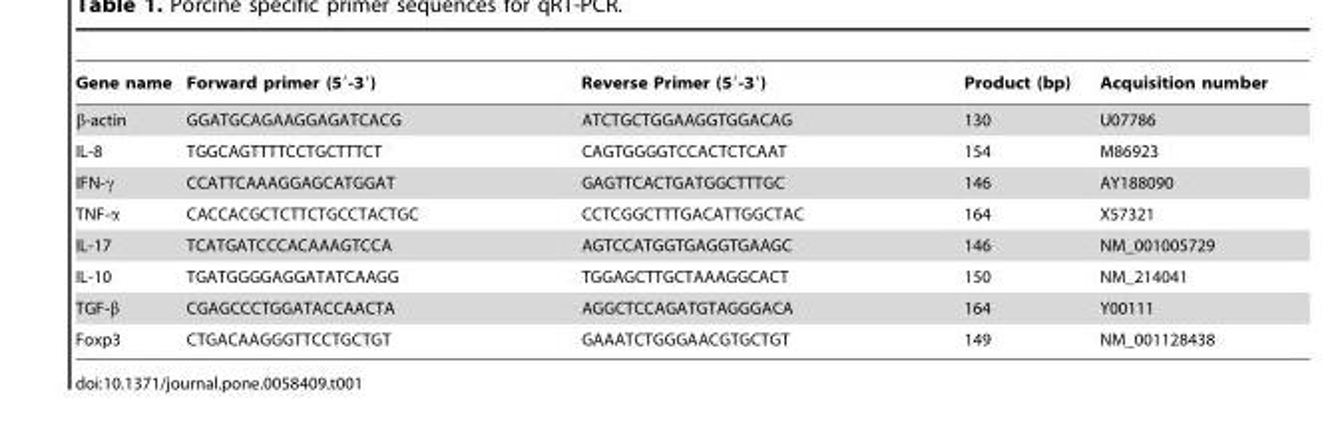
<table><thead><tr><td>Gene name</td><td>Forward primer (5′-3′)</td><td>Reverse Primer (5′-3′)</td><td>Product (bp)</td><td>Acquisition number</td></tr></thead><tbody><tr><td>β-actin</td><td>GGATGCAGAAGGAGATCACG</td><td>ATCTGCTGGAAGGTGGACAG</td><td>130</td><td>U07786</td></tr><tr><td>IL-8</td><td>TGGCAGTTTTCCTGCTTTCT</td><td>CAGTGGGGTCCACTCTCAAT</td><td>154</td><td>M86923</td></tr><tr><td>IFN-γ</td><td>CCATTCAAAGGAGCATGGAT</td><td>GAGTTCACTGATGGCTTTGC</td><td>146</td><td>AY188090</td></tr><tr><td>TNF-α</td><td>CACCACGCTCTTCTGCCTACTGC</td><td>CCTCGGCTTTGACATTGGCTAC</td><td>164</td><td>X57321</td></tr><tr><td>IL-17</td><td>TCATGATCCCACAAAGTCCA</td><td>AGTCCATGGTGAGGTGAAGC</td><td>146</td><td>NM_001005729</td></tr><tr><td>IL-10</td><td>TGATGGGGAGGATATCAAGG</td><td>TGGAGCTTGCTAAAGGCACT</td><td>150</td><td>NM_214041</td></tr><tr><td>TGF-β</td><td>CGAGCCCTGGATACCAACTA</td><td>AGGCTCCAGATGTAGGGACA</td><td>164</td><td>Y00111</td></tr><tr><td>Foxp3</td><td>CTGACAAGGGTTCCTGCTGT</td><td>GAAATCTGGGAACGTGCTGT</td><td>149</td><td>NM_001128438</td></tr></tbody></table>